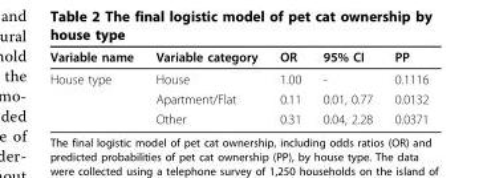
<table><thead><tr><td>Variable name</td><td>Variable category</td><td>OR</td><td>95% CI</td><td>PP</td></tr></thead><tbody><tr><td rowspan="3">House type</td><td>House</td><td>1.00</td><td>-</td><td>0.1116</td></tr><tr><td>Apartment/Flat</td><td>0.11</td><td>0.01, 0.77</td><td>0.0132</td></tr><tr><td>Other</td><td>0.31</td><td>0.04, 2.28</td><td>0.0371</td></tr></tbody></table>